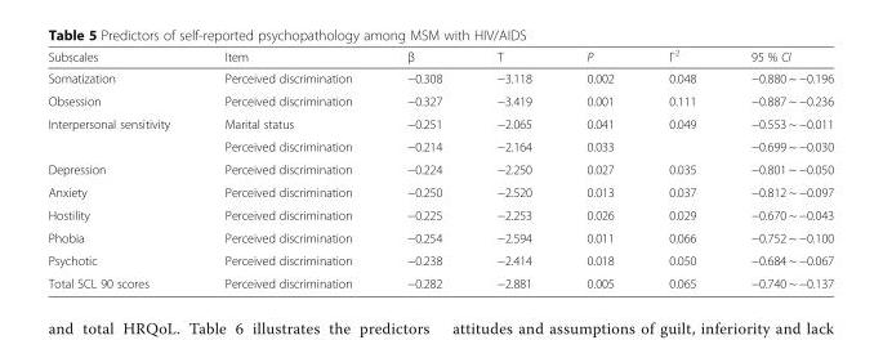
<table><thead><tr><td>Subscales</td><td>Item</td><td>β</td><td>T</td><td>P</td><td>Γ<sup>2</sup></td><td>95 % CI</td></tr></thead><tbody><tr><td>Somatization</td><td>Perceived discrimination</td><td>−0.308</td><td>−3.118</td><td>0.002</td><td>0.048</td><td>−0.880 ~ −0.196</td></tr><tr><td>Obsession</td><td>Perceived discrimination</td><td>−0.327</td><td>−3.419</td><td>0.001</td><td>0.111</td><td>−0.887 ~ −0.236</td></tr><tr><td rowspan="2">Interpersonal sensitivity</td><td>Marital status</td><td>−0.251</td><td>−2.065</td><td>0.041</td><td rowspan="2">0.049</td><td>−0.553 ~ −0.011</td></tr><tr><td>Perceived discrimination</td><td>−0.214</td><td>−2.164</td><td>0.033</td><td>−0.699 ~ −0.030</td></tr><tr><td>Depression</td><td>Perceived discrimination</td><td>−0.224</td><td>−2.250</td><td>0.027</td><td>0.035</td><td>−0.801 ~ −0.050</td></tr><tr><td>Anxiety</td><td>Perceived discrimination</td><td>−0.250</td><td>−2.520</td><td>0.013</td><td>0.037</td><td>−0.812 ~ −0.097</td></tr><tr><td>Hostility</td><td>Perceived discrimination</td><td>−0.225</td><td>−2.253</td><td>0.026</td><td>0.029</td><td>−0.670 ~ −0.043</td></tr><tr><td>Phobia</td><td>Perceived discrimination</td><td>−0.254</td><td>−2.594</td><td>0.011</td><td>0.066</td><td>−0.752 ~ −0.100</td></tr><tr><td>Psychotic</td><td>Perceived discrimination</td><td>−0.238</td><td>−2.414</td><td>0.018</td><td>0.050</td><td>−0.684 ~ −0.067</td></tr><tr><td>Total SCL 90 scores</td><td>Perceived discrimination</td><td>−0.282</td><td>−2.881</td><td>0.005</td><td>0.065</td><td>−0.740 ~ −0.137</td></tr></tbody></table>